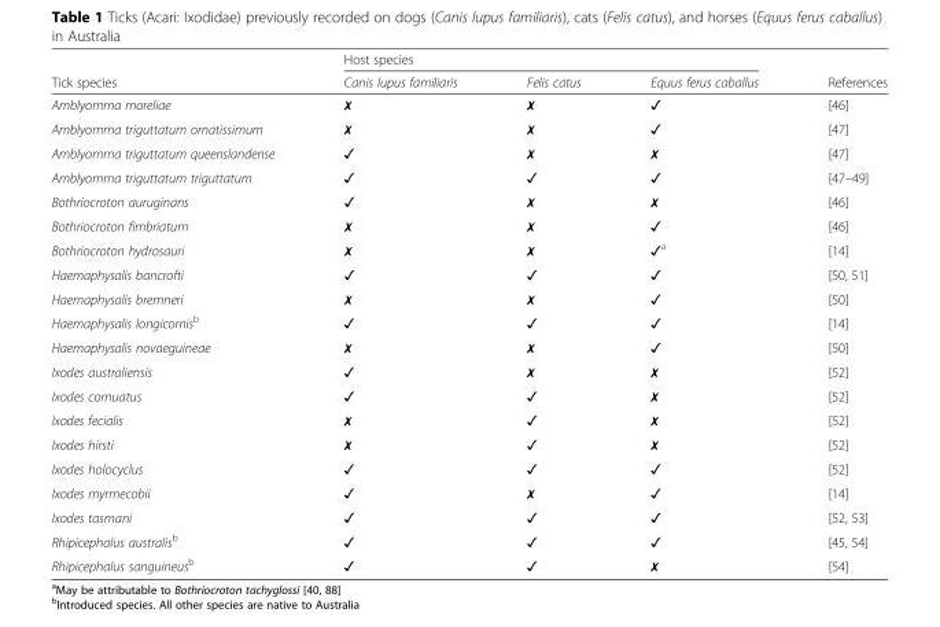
<table><thead><tr><td rowspan="2">Tick species</td><td colspan="3">Host species</td><td rowspan="2">References</td></tr><tr><td>Canis lupus familiaris</td><td>Felis catus</td><td>Equus ferus caballus</td></tr></thead><tbody><tr><td>Amblyomma moreliae</td><td>✗</td><td>✗</td><td>✓</td><td>[46]</td></tr><tr><td>Amblyomma triguttatum ornatissimum</td><td>✗</td><td>✗</td><td>✓</td><td>[47]</td></tr><tr><td>Amblyomma triguttatum queenslandense</td><td>✓</td><td>✗</td><td>✗</td><td>[47]</td></tr><tr><td>Amblyomma triguttatum triguttatum</td><td>✓</td><td>✓</td><td>✓</td><td>[47–49]</td></tr><tr><td>Bothriocroton auruginans</td><td>✓</td><td>✗</td><td>✗</td><td>[46]</td></tr><tr><td>Bothriocroton fimbriatum</td><td>✗</td><td>✗</td><td>✓</td><td>[46]</td></tr><tr><td>Bothriocroton hydrosauri</td><td>✗</td><td>✗</td><td>✓<sup>a</sup></td><td>[14]</td></tr><tr><td>Haemaphysalis bancrofti</td><td>✓</td><td>✓</td><td>✓</td><td>[50, 51]</td></tr><tr><td>Haemaphysalis bremneri</td><td>✗</td><td>✗</td><td>✓</td><td>[50]</td></tr><tr><td>Haemaphysalis longicornis<sup>b</sup></td><td>✓</td><td>✓</td><td>✓</td><td>[14]</td></tr><tr><td>Haemaphysalis novaeguineae</td><td>✗</td><td>✗</td><td>✓</td><td>[50]</td></tr><tr><td>Ixodes australiensis</td><td>✓</td><td>✗</td><td>✗</td><td>[52]</td></tr><tr><td>Ixodes cornuatus</td><td>✓</td><td>✓</td><td>✗</td><td>[52]</td></tr><tr><td>Ixodes fecialis</td><td>✗</td><td>✓</td><td>✗</td><td>[52]</td></tr><tr><td>Ixodes hirsti</td><td>✗</td><td>✓</td><td>✗</td><td>[52]</td></tr><tr><td>Ixodes holocyclus</td><td>✓</td><td>✓</td><td>✓</td><td>[52]</td></tr><tr><td>Ixodes myrmecobii</td><td>✓</td><td>✗</td><td>✓</td><td>[14]</td></tr><tr><td>Ixodes tasmani</td><td>✓</td><td>✓</td><td>✓</td><td>[52, 53]</td></tr><tr><td>Rhipicephalus australis<sup>b</sup></td><td>✓</td><td>✓</td><td>✓</td><td>[45, 54]</td></tr><tr><td>Rhipicephalus sanguineus<sup>b</sup></td><td>✓</td><td>✓</td><td>✗</td><td>[54]</td></tr></tbody></table>